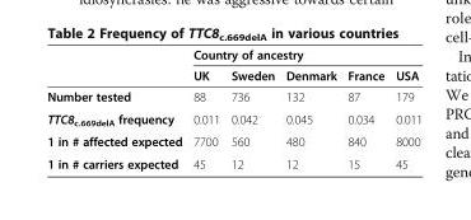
<table><thead><tr><td rowspan="2"></td><td colspan="5">Country of ancestry</td></tr><tr><td>UK</td><td>Sweden</td><td>Denmark</td><td>France</td><td>USA</td></tr></thead><tbody><tr><td>Number tested</td><td>88</td><td>736</td><td>132</td><td>87</td><td>179</td></tr><tr><td>TTC8<sub>c.669delA</sub> frequency</td><td>0.011</td><td>0.042</td><td>0.045</td><td>0.034</td><td>0.011</td></tr><tr><td>1 in # affected expected</td><td>7700</td><td>560</td><td>480</td><td>840</td><td>8000</td></tr><tr><td>1 in # carriers expected</td><td>45</td><td>12</td><td>12</td><td>15</td><td>45</td></tr></tbody></table>